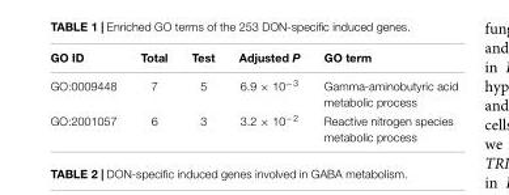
<table><thead><tr><td>GO ID</td><td>Total</td><td>Test</td><td>Adjusted P</td><td>GO term</td></tr></thead><tbody><tr><td>GO:0009448</td><td>7</td><td>5</td><td>6.9 × 10<sup>−3</sup></td><td>Gamma-aminobutyric acid metabolic process</td></tr><tr><td>GO:2001057</td><td>6</td><td>3</td><td>3.2 × 10<sup>−2</sup></td><td>Reactive nitrogen species metabolic process</td></tr></tbody></table>